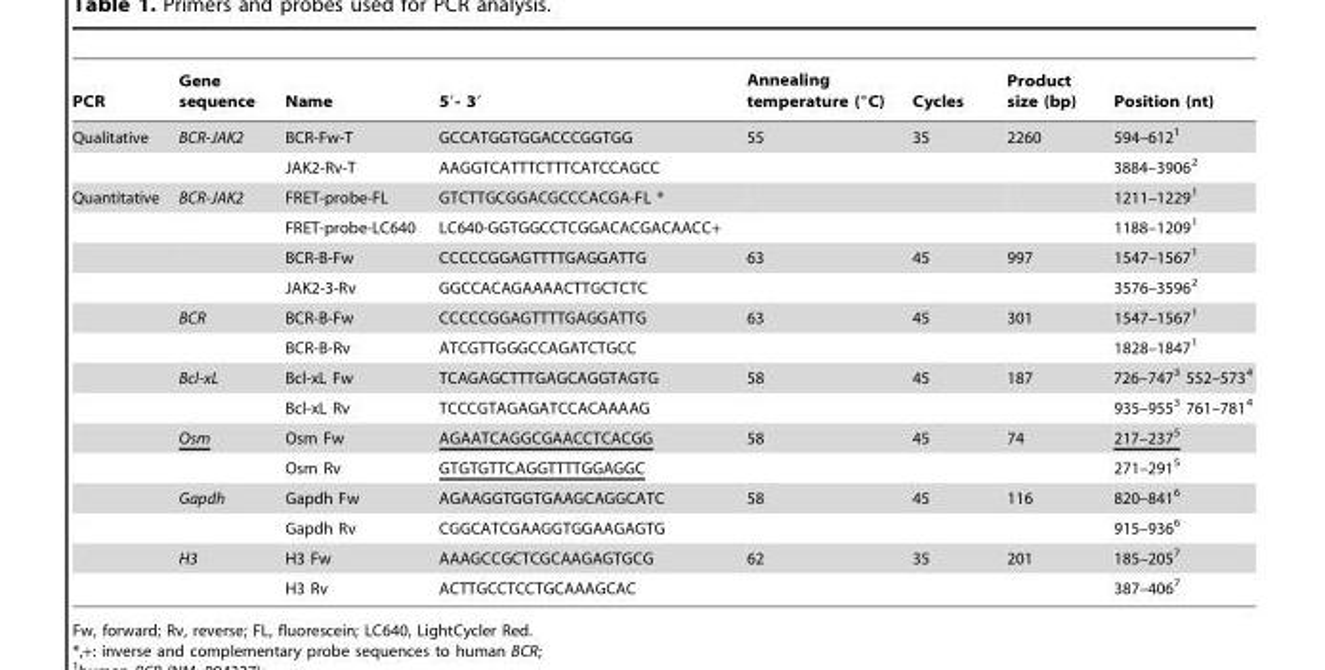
<table><thead><tr><td>PCR</td><td>Gene sequence</td><td>Name</td><td>5′- 3′</td><td>Annealing temperature (°C)</td><td>Cycles</td><td>Product size (bp)</td><td>Position (nt)</td></tr></thead><tbody><tr><td rowspan="2">Qualitative</td><td>BCR-JAK2</td><td>BCR-Fw-T</td><td>GCCATGGTGGACCCGGTGG</td><td>55</td><td>35</td><td>2260</td><td>594–612<sup>1</sup></td></tr><tr><td></td><td>JAK2-Rv-T</td><td>AAGGTCATTTCTTTCATCCAGCC</td><td></td><td></td><td></td><td>3884–3906<sup>2</sup></td></tr><tr><td rowspan="14">Quantitative</td><td>BCR-JAK2</td><td>FRET-probe-FL</td><td>GTCTTGCGGACGCCCACGA-FL *</td><td></td><td></td><td></td><td>1211–1229<sup>1</sup></td></tr><tr><td></td><td>FRET-probe-LC640</td><td>LC640-GGTGGCCTCGGACACGACAACC+</td><td></td><td></td><td></td><td>1188–1209<sup>1</sup></td></tr><tr><td></td><td>BCR-B-Fw</td><td>CCCCCGGAGTTTTGAGGATTG</td><td>63</td><td>45</td><td>997</td><td>1547–1567<sup>1</sup></td></tr><tr><td></td><td>JAK2-3-Rv</td><td>GGCCACAGAAAACTTGCTCTC</td><td></td><td></td><td></td><td>3576–3596<sup>2</sup></td></tr><tr><td>BCR</td><td>BCR-B-Fw</td><td>CCCCCGGAGTTTTGAGGATTG</td><td>63</td><td>45</td><td>301</td><td>1547–1567<sup>1</sup></td></tr><tr><td></td><td>BCR-B-Rv</td><td>ATCGTTGGGCCAGATCTGCC</td><td></td><td></td><td></td><td>1828–1847<sup>1</sup></td></tr><tr><td>Bcl-xL</td><td>Bcl-xL Fw</td><td>TCAGAGCTTTGAGCAGGTAGTG</td><td>58</td><td>45</td><td>187</td><td>726–747<sup>3</sup> 552–573<sup>4</sup></td></tr><tr><td></td><td>Bcl-xL Rv</td><td>TCCCGTAGAGATCCACAAAAG</td><td></td><td></td><td></td><td>935–955<sup>3</sup> 761–781<sup>4</sup></td></tr><tr><td>Osm</td><td>Osm Fw</td><td>AGAATCAGGCGAACCTCACGG</td><td>58</td><td>45</td><td>74</td><td>217–2375</td></tr><tr><td></td><td>Osm Rv</td><td>GTGTGTTCAGGTTTTGGAGGC</td><td></td><td></td><td></td><td>271–291<sup>5</sup></td></tr><tr><td>Gapdh</td><td>Gapdh Fw</td><td>AGAAGGTGGTGAAGCAGGCATC</td><td>58</td><td>45</td><td>116</td><td>820–841<sup>6</sup></td></tr><tr><td></td><td>Gapdh Rv</td><td>CGGCATCGAAGGTGGAAGAGTG</td><td></td><td></td><td></td><td>915–936<sup>6</sup></td></tr><tr><td>H3</td><td>H3 Fw</td><td>AAAGCCGCTCGCAAGAGTGCG</td><td>62</td><td>35</td><td>201</td><td>185–205<sup>7</sup></td></tr><tr><td></td><td>H3 Rv</td><td>ACTTGCCTCCTGCAAAGCAC</td><td></td><td></td><td></td><td>387–406<sup>7</sup></td></tr></tbody></table>